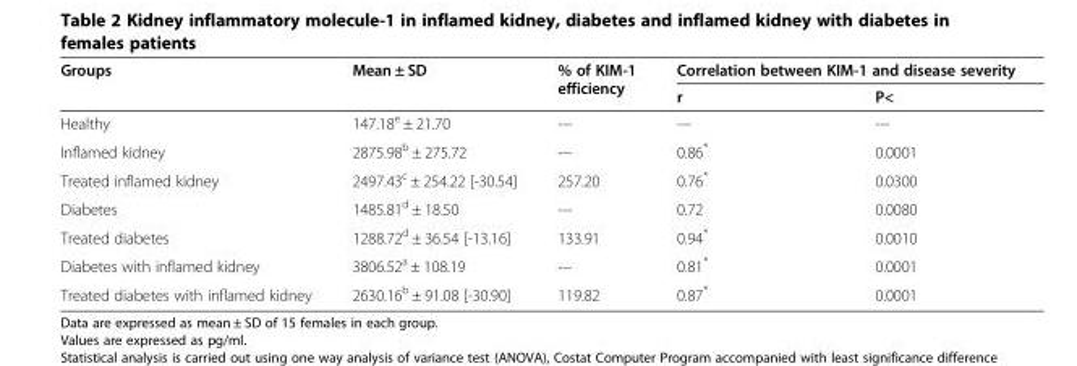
<table><thead><tr><td rowspan="2">Groups</td><td rowspan="2">Mean ± SD</td><td rowspan="2">% of KIM-1 efficiency</td><td colspan="2">Correlation between KIM-1 and disease severity</td></tr><tr><td>r</td><td>P&lt;</td></tr></thead><tbody><tr><td>Healthy</td><td>147.18<sup>e</sup> ± 21.70</td><td>---</td><td>---</td><td>---</td></tr><tr><td>Inflamed kidney</td><td>2875.98<sup>b</sup> ± 275.72</td><td>---</td><td>0.86*</td><td>0.0001</td></tr><tr><td>Treated inflamed kidney</td><td>2497.43<sup>c</sup> ± 254.22 [-30.54]</td><td>257.20</td><td>0.76*</td><td>0.0300</td></tr><tr><td>Diabetes</td><td>1485.81<sup>d</sup> ± 18.50</td><td>---</td><td>0.72</td><td>0.0080</td></tr><tr><td>Treated diabetes</td><td>1288.72<sup>d</sup> ± 36.54 [-13.16]</td><td>133.91</td><td>0.94*</td><td>0.0010</td></tr><tr><td>Diabetes with inflamed kidney</td><td>3806.52<sup>a</sup> ± 108.19</td><td>---</td><td>0.81*</td><td>0.0001</td></tr><tr><td>Treated diabetes with inflamed kidney</td><td>2630.16<sup>b</sup> ± 91.08 [-30.90]</td><td>119.82</td><td>0.87*</td><td>0.0001</td></tr></tbody></table>